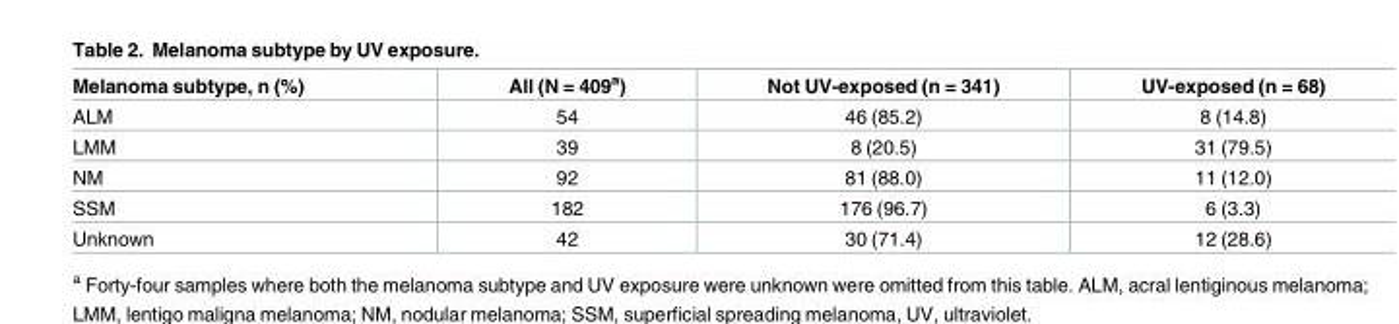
<table><thead><tr><td>Melanoma subtype, n (%)</td><td>All (N = 409<sup>a</sup>)</td><td>Not UV-exposed (n = 341)</td><td>UV-exposed (n = 68)</td></tr></thead><tbody><tr><td>ALM</td><td>54</td><td>46 (85.2)</td><td>8 (14.8)</td></tr><tr><td>LMM</td><td>39</td><td>8 (20.5)</td><td>31 (79.5)</td></tr><tr><td>NM</td><td>92</td><td>81 (88.0)</td><td>11 (12.0)</td></tr><tr><td>SSM</td><td>182</td><td>176 (96.7)</td><td>6 (3.3)</td></tr><tr><td>Unknown</td><td>42</td><td>30 (71.4)</td><td>12 (28.6)</td></tr></tbody></table>